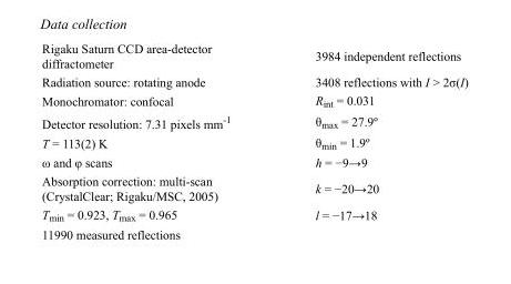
<table><tbody><tr><td>Rigaku Saturn CCD area-detector diffractometer</td><td>3984 independent reflections</td></tr><tr><td>Radiation source: rotating anode</td><td>3408 reflections with I &gt; 2σ(I)</td></tr><tr><td>Monochromator: confocal</td><td>R<sub>int</sub> = 0.031</td></tr><tr><td>Detector resolution: 7.31 pixels mm<sup>-1</sup></td><td>θ<sub>max</sub> = 27.9º</td></tr><tr><td>T = 113(2) K</td><td>θ<sub>min</sub> = 1.9º</td></tr><tr><td>ω and φ scans</td><td>h = −9→9</td></tr><tr><td>Absorption correction: multi-scan (CrystalClear; Rigaku/MSC, 2005)</td><td>k = −20→20</td></tr><tr><td>T<sub>min</sub> = 0.923, T<sub>max</sub> = 0.965</td><td>l = −17→18</td></tr><tr><td>11990 measured reflections</td><td></td></tr></tbody></table>